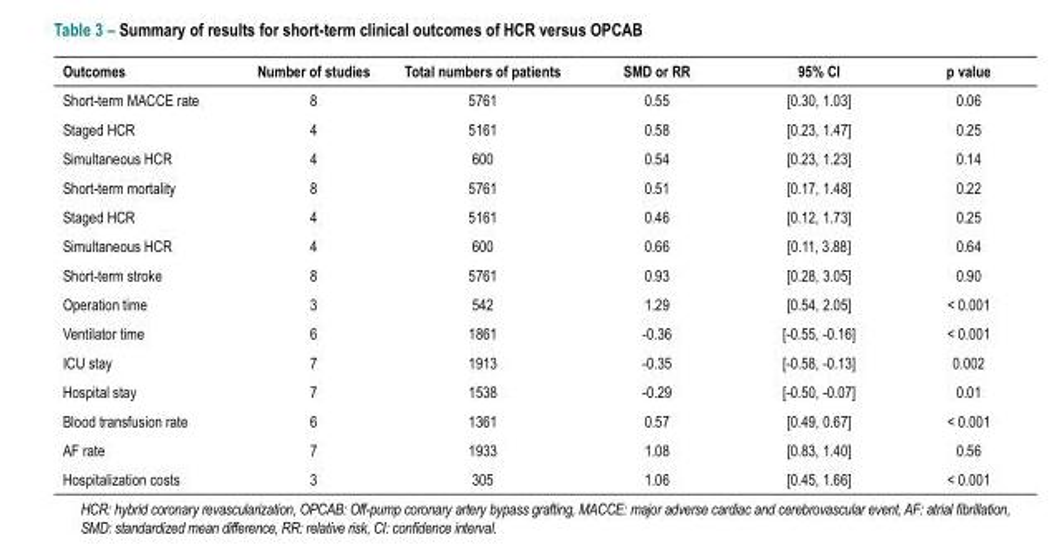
<table><thead><tr><td>Outcomes</td><td>Number of studies</td><td>Total numbers of patients</td><td>SMD or RR</td><td>95% CI</td><td>p value</td></tr></thead><tbody><tr><td>Short-term MACCE rate</td><td>8</td><td>5761</td><td>0.55</td><td>[0.30, 1.03]</td><td>0.06</td></tr><tr><td>Staged HCR</td><td>4</td><td>5161</td><td>0.58</td><td>[0.23, 1.47]</td><td>0.25</td></tr><tr><td>Simultaneous HCR</td><td>4</td><td>600</td><td>0.54</td><td>[0.23, 1.23]</td><td>0.14</td></tr><tr><td>Short-term mortality</td><td>8</td><td>5761</td><td>0.51</td><td>[0.17, 1.48]</td><td>0.22</td></tr><tr><td>Staged HCR</td><td>4</td><td>5161</td><td>0.46</td><td>[0.12, 1.73]</td><td>0.25</td></tr><tr><td>Simultaneous HCR</td><td>4</td><td>600</td><td>0.66</td><td>[0.11, 3.88]</td><td>0.64</td></tr><tr><td>Short-term stroke</td><td>8</td><td>5761</td><td>0.93</td><td>[0.28, 3.05]</td><td>0.90</td></tr><tr><td>Operation time</td><td>3</td><td>542</td><td>1.29</td><td>[0.54, 2.05]</td><td>&lt; 0.001</td></tr><tr><td>Ventilator time</td><td>6</td><td>1861</td><td>-0.36</td><td>[-0.55, -0.16]</td><td>&lt; 0.001</td></tr><tr><td>ICU stay</td><td>7</td><td>1913</td><td>-0.35</td><td>[-0.58, -0.13]</td><td>0.002</td></tr><tr><td>Hospital stay</td><td>7</td><td>1538</td><td>-0.29</td><td>[-0.50, -0.07]</td><td>0.01</td></tr><tr><td>Blood transfusion rate</td><td>6</td><td>1361</td><td>0.57</td><td>[0.49, 0.67]</td><td>&lt; 0.001</td></tr><tr><td>AF rate</td><td>7</td><td>1933</td><td>1.08</td><td>[0.83, 1.40]</td><td>0.56</td></tr><tr><td>Hospitalization costs</td><td>3</td><td>305</td><td>1.06</td><td>[0.45, 1.66]</td><td>&lt; 0.001</td></tr></tbody></table>